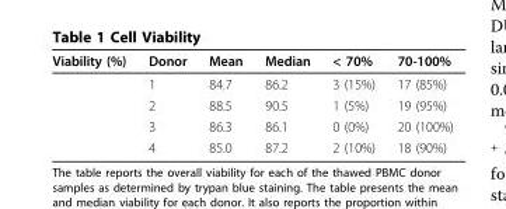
<table><thead><tr><td>Viability (%)</td><td>Donor</td><td>Mean</td><td>Median</td><td>&lt; 70%</td><td>70-100%</td></tr></thead><tbody><tr><td></td><td>1</td><td>84.7</td><td>86.2</td><td>3 (15%)</td><td>17 (85%)</td></tr><tr><td></td><td>2</td><td>88.5</td><td>90.5</td><td>1 (5%)</td><td>19 (95%)</td></tr><tr><td></td><td>3</td><td>86.3</td><td>86.1</td><td>0 (0%)</td><td>20 (100%)</td></tr><tr><td></td><td>4</td><td>85.0</td><td>87.2</td><td>2 (10%)</td><td>18 (90%)</td></tr></tbody></table>